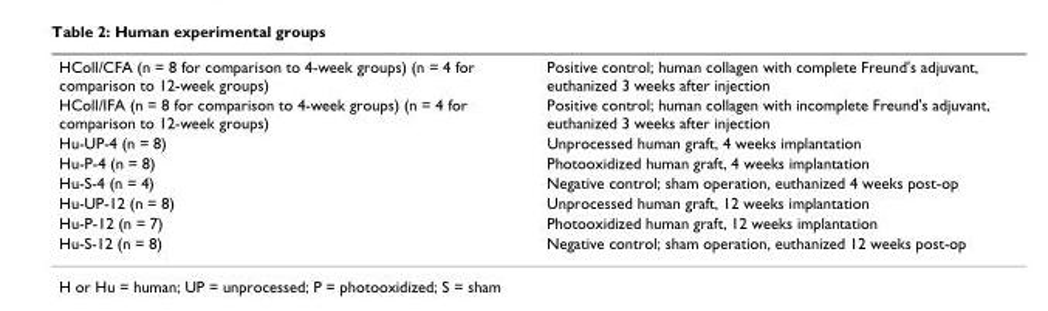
<table><tbody><tr><td>HColl/CFA (n = 8 for comparison to 4-week groups) (n = 4 for comparison to 12-week groups)</td><td>Positive control; human collagen with complete Freund&#x27;s adjuvant, euthanized 3 weeks after injection</td></tr><tr><td>HColl/IFA (n = 8 for comparison to 4-week groups) (n = 4 for comparison to 12-week groups)</td><td>Positive control; human collagen with incomplete Freund&#x27;s adjuvant, euthanized 3 weeks after injection</td></tr><tr><td>Hu-UP-4 (n = 8)</td><td>Unprocessed human graft, 4 weeks implantation</td></tr><tr><td>Hu-P-4 (n = 8)</td><td>Photooxidized human graft, 4 weeks implantation</td></tr><tr><td>Hu-S-4 (n = 4)</td><td>Negative control; sham operation, euthanized 4 weeks post-op</td></tr><tr><td>Hu-UP-12 (n = 8)</td><td>Unprocessed human graft, 12 weeks implantation</td></tr><tr><td>Hu-P-12 (n = 7)</td><td>Photooxidized human graft, 12 weeks implantation</td></tr><tr><td>Hu-S-12 (n = 8)</td><td>Negative control; sham operation, euthanized 12 weeks post-op</td></tr></tbody></table>